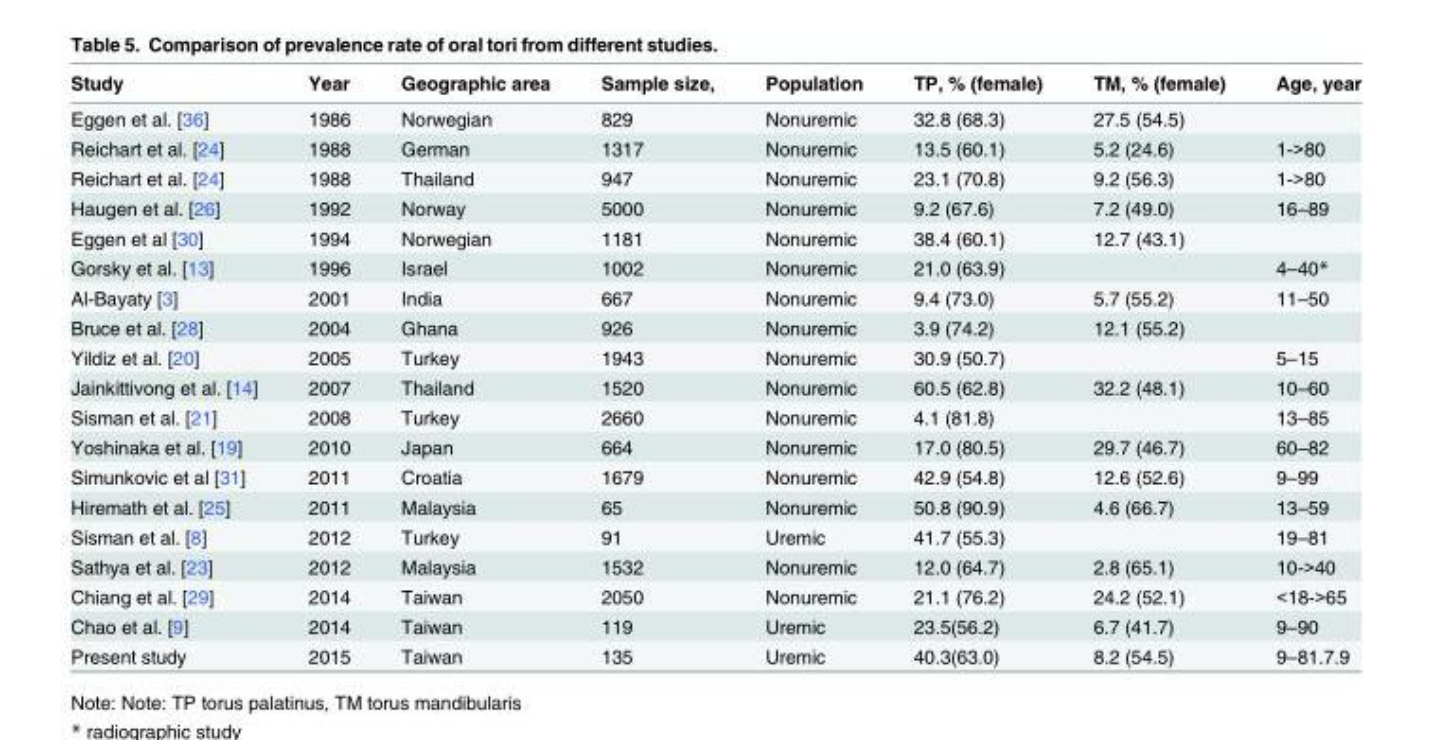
<table><thead><tr><td>Study</td><td>Year</td><td>Geographic area</td><td>Sample size,</td><td>Population</td><td>TP, % (female)</td><td>TM, % (female)</td><td>Age, year</td></tr></thead><tbody><tr><td>Eggen et al. [36]</td><td>1986</td><td>Norwegian</td><td>829</td><td>Nonuremic</td><td>32.8 (68.3)</td><td>27.5 (54.5)</td><td></td></tr><tr><td>Reichart et al. [24]</td><td>1988</td><td>German</td><td>1317</td><td>Nonuremic</td><td>13.5 (60.1)</td><td>5.2 (24.6)</td><td>1-&gt;80</td></tr><tr><td>Reichart et al. [24]</td><td>1988</td><td>Thailand</td><td>947</td><td>Nonuremic</td><td>23.1 (70.8)</td><td>9.2 (56.3)</td><td>1-&gt;80</td></tr><tr><td>Haugen et al. [26]</td><td>1992</td><td>Norway</td><td>5000</td><td>Nonuremic</td><td>9.2 (67.6)</td><td>7.2 (49.0)</td><td>16–89</td></tr><tr><td>Eggen et al [30]</td><td>1994</td><td>Norwegian</td><td>1181</td><td>Nonuremic</td><td>38.4 (60.1)</td><td>12.7 (43.1)</td><td></td></tr><tr><td>Gorsky et al. [13]</td><td>1996</td><td>Israel</td><td>1002</td><td>Nonuremic</td><td>21.0 (63.9)</td><td></td><td>4–40*</td></tr><tr><td>Al-Bayaty [3]</td><td>2001</td><td>India</td><td>667</td><td>Nonuremic</td><td>9.4 (73.0)</td><td>5.7 (55.2)</td><td>11–50</td></tr><tr><td>Bruce et al. [28]</td><td>2004</td><td>Ghana</td><td>926</td><td>Nonuremic</td><td>3.9 (74.2)</td><td>12.1 (55.2)</td><td></td></tr><tr><td>Yildiz et al. [20]</td><td>2005</td><td>Turkey</td><td>1943</td><td>Nonuremic</td><td>30.9 (50.7)</td><td></td><td>5–15</td></tr><tr><td>Jainkittivong et al. [14]</td><td>2007</td><td>Thailand</td><td>1520</td><td>Nonuremic</td><td>60.5 (62.8)</td><td>32.2 (48.1)</td><td>10–60</td></tr><tr><td>Sisman et al. [21]</td><td>2008</td><td>Turkey</td><td>2660</td><td>Nonuremic</td><td>4.1 (81.8)</td><td></td><td>13–85</td></tr><tr><td>Yoshinaka et al. [19]</td><td>2010</td><td>Japan</td><td>664</td><td>Nonuremic</td><td>17.0 (80.5)</td><td>29.7 (46.7)</td><td>60–82</td></tr><tr><td>Simunkovic et al [31]</td><td>2011</td><td>Croatia</td><td>1679</td><td>Nonuremic</td><td>42.9 (54.8)</td><td>12.6 (52.6)</td><td>9–99</td></tr><tr><td>Hiremath et al. [25]</td><td>2011</td><td>Malaysia</td><td>65</td><td>Nonuremic</td><td>50.8 (90.9)</td><td>4.6 (66.7)</td><td>13–59</td></tr><tr><td>Sisman et al. [8]</td><td>2012</td><td>Turkey</td><td>91</td><td>Uremic</td><td>41.7 (55.3)</td><td></td><td>19–81</td></tr><tr><td>Sathya et al. [23]</td><td>2012</td><td>Malaysia</td><td>1532</td><td>Nonuremic</td><td>12.0 (64.7)</td><td>2.8 (65.1)</td><td>10-&gt;40</td></tr><tr><td>Chiang et al. [29]</td><td>2014</td><td>Taiwan</td><td>2050</td><td>Nonuremic</td><td>21.1 (76.2)</td><td>24.2 (52.1)</td><td>&lt;18-&gt;65</td></tr><tr><td>Chao et al. [9]</td><td>2014</td><td>Taiwan</td><td>119</td><td>Uremic</td><td>23.5(56.2)</td><td>6.7 (41.7)</td><td>9–90</td></tr><tr><td>Present study</td><td>2015</td><td>Taiwan</td><td>135</td><td>Uremic</td><td>40.3(63.0)</td><td>8.2 (54.5)</td><td>9–81.7.9</td></tr></tbody></table>